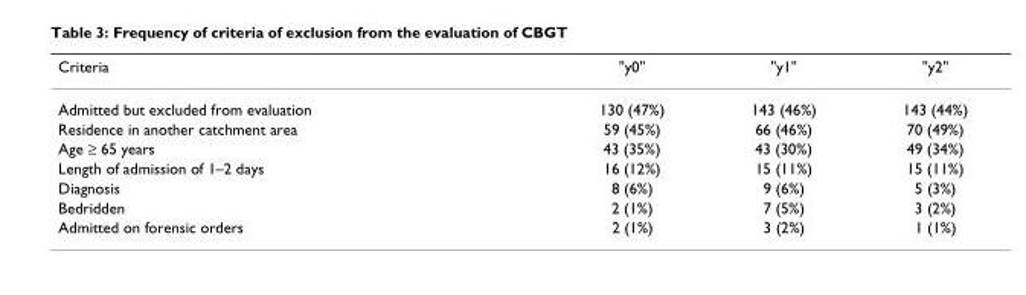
<table><thead><tr><td>Criteria</td><td>&quot;y0&quot;</td><td>&quot;y1&quot;</td><td>&quot;y2&quot;</td></tr></thead><tbody><tr><td>Admitted but excluded from evaluation</td><td>130 (47%)</td><td>143 (46%)</td><td>143 (44%)</td></tr><tr><td>Residence in another catchment area</td><td>59 (45%)</td><td>66 (46%)</td><td>70 (49%)</td></tr><tr><td>Age ≥ 65 years</td><td>43 (35%)</td><td>43 (30%)</td><td>49 (34%)</td></tr><tr><td>Length of admission of 1–2 days</td><td>16 (12%)</td><td>15 (11%)</td><td>15 (11%)</td></tr><tr><td>Diagnosis</td><td>8 (6%)</td><td>9 (6%)</td><td>5 (3%)</td></tr><tr><td>Bedridden</td><td>2 (1%)</td><td>7 (5%)</td><td>3 (2%)</td></tr><tr><td>Admitted on forensic orders</td><td>2 (1%)</td><td>3 (2%)</td><td>1 (1%)</td></tr></tbody></table>